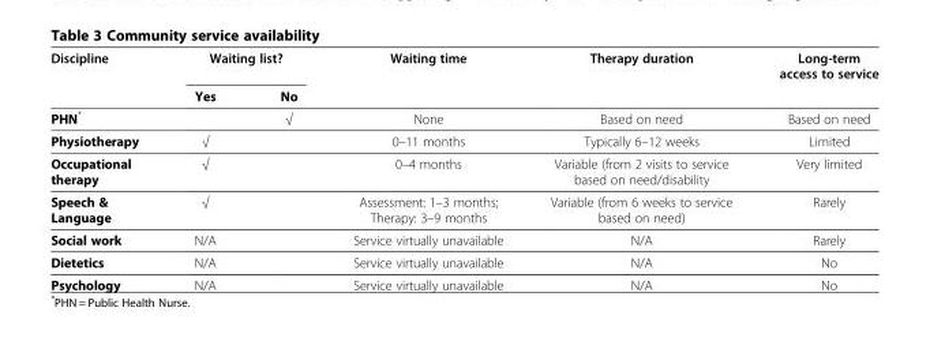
<table><thead><tr><td rowspan="2">Discipline</td><td colspan="2">Waiting list?</td><td rowspan="2">Waiting time</td><td rowspan="2">Therapy duration</td><td rowspan="2">Long-term access to service</td></tr><tr><td>Yes</td><td>No</td></tr></thead><tbody><tr><td>PHN*</td><td></td><td>√</td><td>None</td><td>Based on need</td><td>Based on need</td></tr><tr><td>Physiotherapy</td><td>√</td><td></td><td>0–11 months</td><td>Typically 6–12 weeks</td><td>Limited</td></tr><tr><td>Occupational therapy</td><td>√</td><td></td><td>0–4 months</td><td>Variable (from 2 visits to service based on need/disability</td><td>Very limited</td></tr><tr><td>Speech &amp; Language</td><td>√</td><td></td><td>Assessment: 1–3 months; Therapy: 3–9 months</td><td>Variable (from 6 weeks to service based on need)</td><td>Rarely</td></tr><tr><td>Social work</td><td>N/A</td><td></td><td>Service virtually unavailable</td><td>N/A</td><td>Rarely</td></tr><tr><td>Dietetics</td><td>N/A</td><td></td><td>Service virtually unavailable</td><td>N/A</td><td>No</td></tr><tr><td>Psychology</td><td>N/A</td><td></td><td>Service virtually unavailable</td><td>N/A</td><td>No</td></tr></tbody></table>